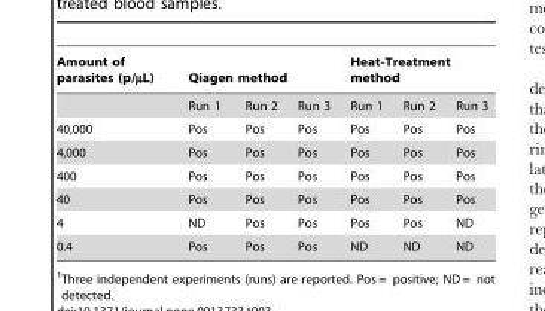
<table><thead><tr><td rowspan="2">Amount of parasites (p/µL)</td><td colspan="3">Qiagen method</td><td colspan="3">Heat-Treatment method</td></tr><tr><td>Run 1</td><td>Run 2</td><td>Run 3</td><td>Run 1</td><td>Run 2</td><td>Run 3</td></tr></thead><tbody><tr><td>40,000</td><td>Pos</td><td>Pos</td><td>Pos</td><td>Pos</td><td>Pos</td><td>Pos</td></tr><tr><td>4,000</td><td>Pos</td><td>Pos</td><td>Pos</td><td>Pos</td><td>Pos</td><td>Pos</td></tr><tr><td>400</td><td>Pos</td><td>Pos</td><td>Pos</td><td>Pos</td><td>Pos</td><td>Pos</td></tr><tr><td>40</td><td>Pos</td><td>Pos</td><td>Pos</td><td>Pos</td><td>Pos</td><td>Pos</td></tr><tr><td>4</td><td>ND</td><td>Pos</td><td>Pos</td><td>Pos</td><td>Pos</td><td>ND</td></tr><tr><td>0.4</td><td>Pos</td><td>Pos</td><td>Pos</td><td>ND</td><td>ND</td><td>ND</td></tr></tbody></table>